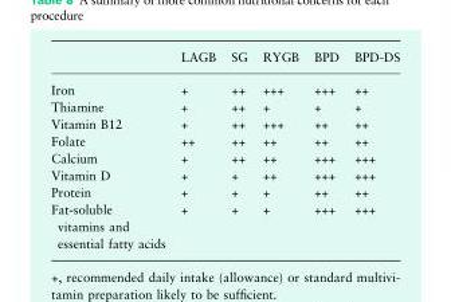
<table><thead><tr><td></td><td>LAGB</td><td>SG</td><td>RYGB</td><td>BPD</td><td>BPD-DS</td></tr></thead><tbody><tr><td>Iron</td><td>+</td><td>++</td><td>+++</td><td>+++</td><td>++</td></tr><tr><td>Thiamine</td><td>+</td><td>++</td><td>+</td><td>+</td><td>+</td></tr><tr><td>Vitamin B12</td><td>+</td><td>++</td><td>+++</td><td>++</td><td>++</td></tr><tr><td>Folate</td><td>++</td><td>++</td><td>++</td><td>++</td><td>++</td></tr><tr><td>Calcium</td><td>+</td><td>++</td><td>++</td><td>+++</td><td>+++</td></tr><tr><td>Vitamin D</td><td>+</td><td>+</td><td>++</td><td>+++</td><td>+++</td></tr><tr><td>Protein</td><td>+</td><td>+</td><td>+</td><td>++</td><td>++</td></tr><tr><td>Fat-soluble vitamins and essential fatty acids</td><td>+</td><td>+</td><td>+</td><td>+++</td><td>+++</td></tr></tbody></table>